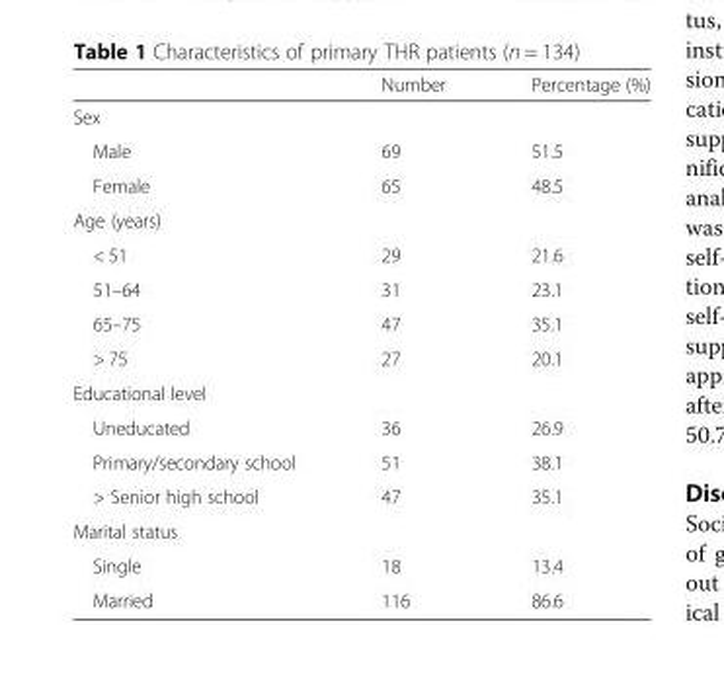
<table><thead><tr><td></td><td>Number</td><td>Percentage (%)</td></tr></thead><tbody><tr><td colspan="3">Sex</td></tr><tr><td>Male</td><td>69</td><td>51.5</td></tr><tr><td>Female</td><td>65</td><td>48.5</td></tr><tr><td colspan="3">Age (years)</td></tr><tr><td>&lt; 51</td><td>29</td><td>21.6</td></tr><tr><td>51–64</td><td>31</td><td>23.1</td></tr><tr><td>65–75</td><td>47</td><td>35.1</td></tr><tr><td>&gt; 75</td><td>27</td><td>20.1</td></tr><tr><td colspan="3">Educational level</td></tr><tr><td>Uneducated</td><td>36</td><td>26.9</td></tr><tr><td>Primary/secondary school</td><td>51</td><td>38.1</td></tr><tr><td>&gt; Senior high school</td><td>47</td><td>35.1</td></tr><tr><td colspan="3">Marital status</td></tr><tr><td>Single</td><td>18</td><td>13.4</td></tr><tr><td>Married</td><td>116</td><td>86.6</td></tr></tbody></table>